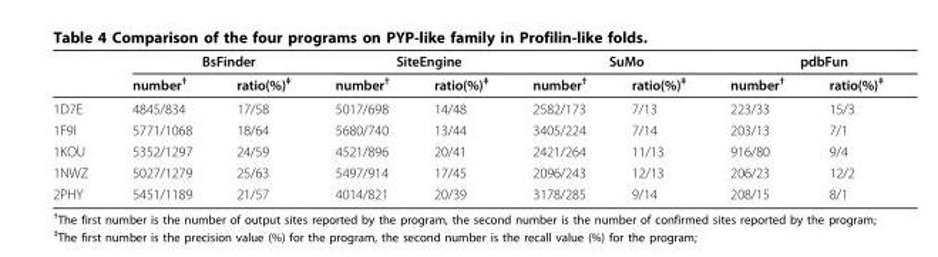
<table><thead><tr><td rowspan="2"></td><td colspan="2">BsFinder</td><td colspan="2">SiteEngine</td><td colspan="2">SuMo</td><td colspan="2">pdbFun</td></tr><tr><td>number<sup>†</sup></td><td>ratio(%)<sup>‡</sup></td><td>number<sup>†</sup></td><td>ratio(%)<sup>‡</sup></td><td>number<sup>†</sup></td><td>ratio(%)<sup>‡</sup></td><td>number<sup>†</sup></td><td>ratio(%)<sup>‡</sup></td></tr></thead><tbody><tr><td>1D7E</td><td>4845/834</td><td>17/58</td><td>5017/698</td><td>14/48</td><td>2582/173</td><td>7/13</td><td>223/33</td><td>15/3</td></tr><tr><td>1F9I</td><td>5771/1068</td><td>18/64</td><td>5680/740</td><td>13/44</td><td>3405/224</td><td>7/14</td><td>203/13</td><td>7/1</td></tr><tr><td>1KOU</td><td>5352/1297</td><td>24/59</td><td>4521/896</td><td>20/41</td><td>2421/264</td><td>11/13</td><td>916/80</td><td>9/4</td></tr><tr><td>1NWZ</td><td>5027/1279</td><td>25/63</td><td>5497/914</td><td>17/45</td><td>2096/243</td><td>12/13</td><td>206/23</td><td>12/2</td></tr><tr><td>2PHY</td><td>5451/1189</td><td>21/57</td><td>4014/821</td><td>20/39</td><td>3178/285</td><td>9/14</td><td>208/15</td><td>8/1</td></tr></tbody></table>